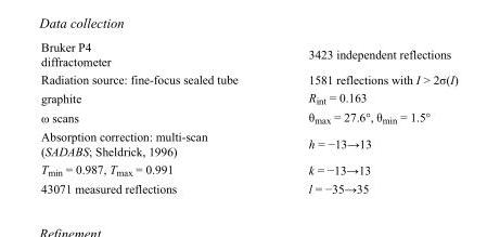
<table><tbody><tr><td>Bruker P4 diffractometer</td><td>3423 independent reflections</td></tr><tr><td>Radiation source: fine-focus sealed tube</td><td>1581 reflections with I &gt; 2σ(I)</td></tr><tr><td>graphite</td><td>R<sub>int</sub> = 0.163</td></tr><tr><td>ω scans</td><td>θ<sub>max</sub> = 27.6°, θ<sub>min</sub> = 1.5°</td></tr><tr><td>Absorption correction: multi-scan (SADABS; Sheldrick, 1996)</td><td>h = −13→13</td></tr><tr><td>T<sub>min</sub> = 0.987, T<sub>max</sub> = 0.991</td><td>k = −13→13</td></tr><tr><td>43071 measured reflections</td><td>l = −35→35</td></tr></tbody></table>